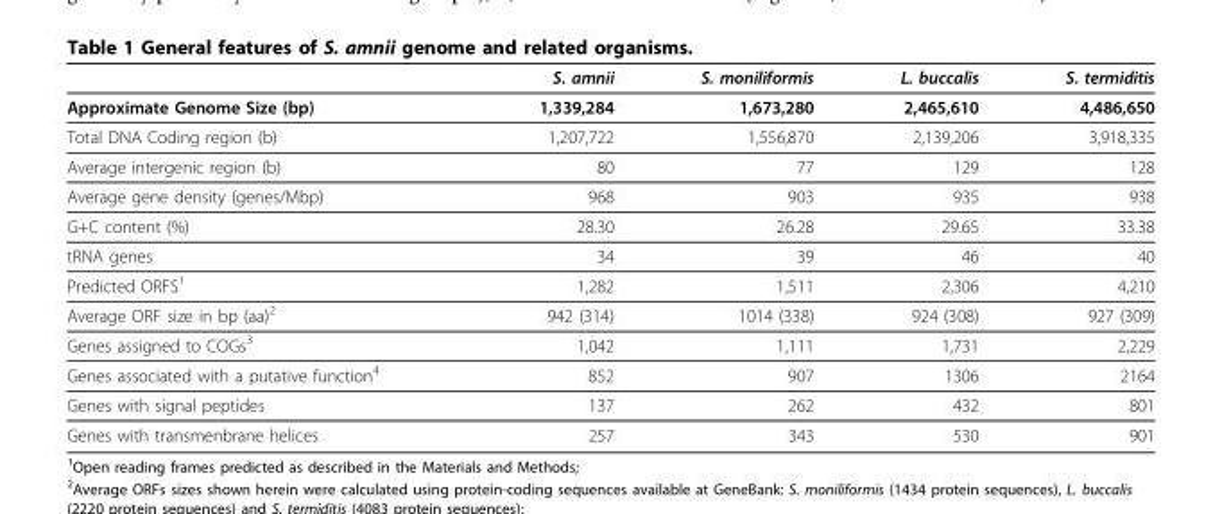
<table><thead><tr><td></td><td>S. amnii</td><td>S. moniliformis</td><td>L. buccalis</td><td>S. termiditis</td></tr></thead><tbody><tr><td>Approximate Genome Size (bp)</td><td>1,339,284</td><td>1,673,280</td><td>2,465,610</td><td>4,486,650</td></tr><tr><td>Total DNA Coding region (b)</td><td>1,207,722</td><td>1,556,870</td><td>2,139,206</td><td>3,918,335</td></tr><tr><td>Average intergenic region (b)</td><td>80</td><td>77</td><td>129</td><td>128</td></tr><tr><td>Average gene density (genes/Mbp)</td><td>968</td><td>903</td><td>935</td><td>938</td></tr><tr><td>G+C content (%)</td><td>28.30</td><td>26.28</td><td>29.65</td><td>33.38</td></tr><tr><td>tRNA genes</td><td>34</td><td>39</td><td>46</td><td>40</td></tr><tr><td>Predicted ORFS<sup>1</sup></td><td>1,282</td><td>1,511</td><td>2,306</td><td>4,210</td></tr><tr><td>Average ORF size in bp (aa)<sup>2</sup></td><td>942 (314)</td><td>1014 (338)</td><td>924 (308)</td><td>927 (309)</td></tr><tr><td>Genes assigned to COGs<sup>3</sup></td><td>1,042</td><td>1,111</td><td>1,731</td><td>2,229</td></tr><tr><td>Genes associated with a putative function<sup>4</sup></td><td>852</td><td>907</td><td>1306</td><td>2164</td></tr><tr><td>Genes with signal peptides</td><td>137</td><td>262</td><td>432</td><td>801</td></tr><tr><td>Genes with transmenbrane helices</td><td>257</td><td>343</td><td>530</td><td>901</td></tr></tbody></table>